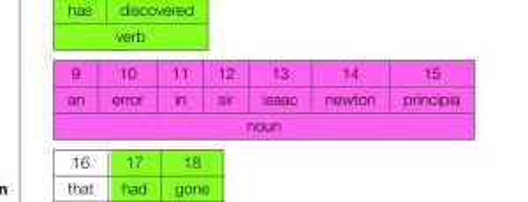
<table><tbody><tr><td>9</td><td>10</td><td>11</td><td>12</td><td>13</td><td>14</td><td>15</td></tr><tr><td>an</td><td>error</td><td>in</td><td>sir</td><td>isaac</td><td>newton</td><td>principia</td></tr><tr><td colspan="7">noun</td></tr></tbody></table>